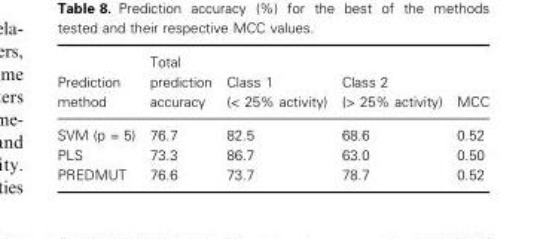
<table><thead><tr><td>Prediction method</td><td>Total prediction accuracy</td><td>Class 1 (&lt; 25% activity)</td><td>Class 2 (&gt; 25% activity)</td><td>MCC</td></tr></thead><tbody><tr><td>SVM (p = 5)</td><td>76.7</td><td>82.5</td><td>68.6</td><td>0.52</td></tr><tr><td>PLS</td><td>73.3</td><td>86.7</td><td>63.0</td><td>0.50</td></tr><tr><td>PREDMUT</td><td>76.6</td><td>73.7</td><td>78.7</td><td>0.52</td></tr></tbody></table>